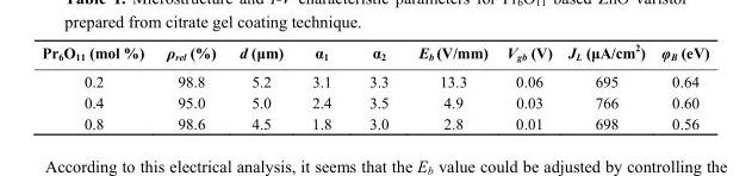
<table><thead><tr><td>Pr<sub>6</sub>O<sub>11</sub> (mol %)</td><td>ρ<sub>rel</sub> (%)</td><td>d (μm)</td><td>α<sub>1</sub></td><td>α<sub>2</sub></td><td>E<sub>b</sub> (V/mm)</td><td>V<sub>gb</sub> (V)</td><td>J<sub>L</sub> (μA/cm<sup>2</sup>)</td><td>φ<sub>B</sub> (eV)</td></tr></thead><tbody><tr><td>0.2</td><td>98.8</td><td>5.2</td><td>3.1</td><td>3.3</td><td>13.3</td><td>0.06</td><td>695</td><td>0.64</td></tr><tr><td>0.4</td><td>95.0</td><td>5.0</td><td>2.4</td><td>3.5</td><td>4.9</td><td>0.03</td><td>766</td><td>0.60</td></tr><tr><td>0.8</td><td>98.6</td><td>4.5</td><td>1.8</td><td>3.0</td><td>2.8</td><td>0.01</td><td>698</td><td>0.56</td></tr></tbody></table>